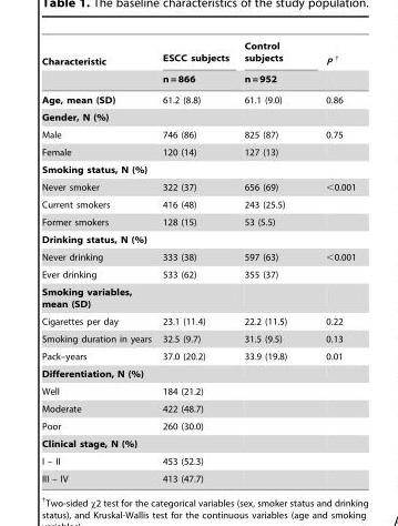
<table><thead><tr><td rowspan="2">Characteristic</td><td rowspan="2">ESCC subjects n = 866</td><td rowspan="2">Control subjects n = 952</td><td rowspan="2">P †</td></tr><tr></tr></thead><tbody><tr><td>Age, mean (SD)</td><td>61.2 (8.8)</td><td>61.1 (9.0)</td><td>0.86</td></tr><tr><td colspan="4">Gender, N (%)</td></tr><tr><td>Male</td><td>746 (86)</td><td>825 (87)</td><td>0.75</td></tr><tr><td>Female</td><td>120 (14)</td><td>127 (13)</td><td></td></tr><tr><td colspan="4">Smoking status, N (%)</td></tr><tr><td>Never smoker</td><td>322 (37)</td><td>656 (69)</td><td>&lt;0.001</td></tr><tr><td>Current smokers</td><td>416 (48)</td><td>243 (25.5)</td><td></td></tr><tr><td>Former smokers</td><td>128 (15)</td><td>53 (5.5)</td><td></td></tr><tr><td colspan="4">Drinking status, N (%)</td></tr><tr><td>Never drinking</td><td>333 (38)</td><td>597 (63)</td><td>&lt;0.001</td></tr><tr><td>Ever drinking</td><td>533 (62)</td><td>355 (37)</td><td></td></tr><tr><td colspan="4">Smoking variables, mean (SD)</td></tr><tr><td>Cigarettes per day</td><td>23.1 (11.4)</td><td>22.2 (11.5)</td><td>0.22</td></tr><tr><td>Smoking duration in years</td><td>32.5 (9.7)</td><td>31.5 (9.5)</td><td>0.13</td></tr><tr><td>Pack–years</td><td>37.0 (20.2)</td><td>33.9 (19.8)</td><td>0.01</td></tr><tr><td colspan="4">Differentiation, N (%)</td></tr><tr><td>Well</td><td>184 (21.2)</td><td></td><td></td></tr><tr><td>Moderate</td><td>422 (48.7)</td><td></td><td></td></tr><tr><td>Poor</td><td>260 (30.0)</td><td></td><td></td></tr><tr><td colspan="4">Clinical stage, N (%)</td></tr><tr><td>I – II</td><td>453 (52.3)</td><td></td><td></td></tr><tr><td>III – IV</td><td>413 (47.7)</td><td></td><td></td></tr></tbody></table>